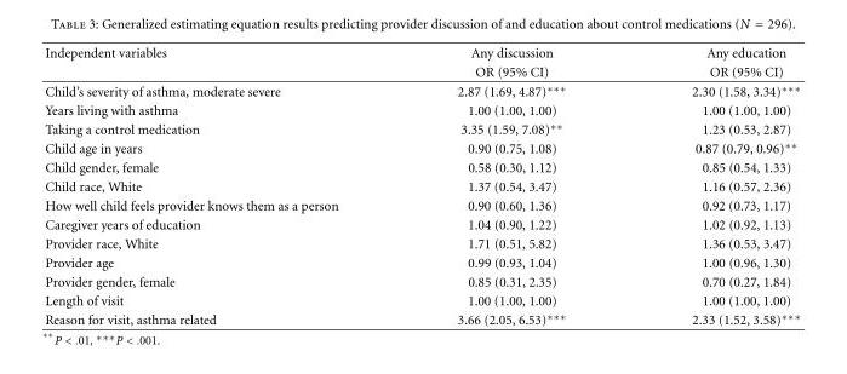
<table><thead><tr><td rowspan="2">Independent variables</td><td rowspan="2">Any discussion OR (95% CI)</td><td rowspan="2">Any education OR (95% CI)</td></tr><tr></tr></thead><tbody><tr><td>Child’s severity of asthma, moderate severe</td><td>2.87 (1.69, 4.87)∗∗∗</td><td>2.30 (1.58, 3.34)∗∗∗</td></tr><tr><td>Years living with asthma</td><td>1.00 (1.00, 1.00)</td><td>1.00 (1.00, 1.00)</td></tr><tr><td>Taking a control medication</td><td>3.35 (1.59, 7.08)∗∗</td><td>1.23 (0.53, 2.87)</td></tr><tr><td>Child age in years</td><td>0.90 (0.75, 1.08)</td><td>0.87 (0.79, 0.96)∗∗</td></tr><tr><td>Child gender, female</td><td>0.58 (0.30, 1.12)</td><td>0.85 (0.54, 1.33)</td></tr><tr><td>Child race, White</td><td>1.37 (0.54, 3.47)</td><td>1.16 (0.57, 2.36)</td></tr><tr><td>How well child feels provider knows them as a person</td><td>0.90 (0.60, 1.36)</td><td>0.92 (0.73, 1.17)</td></tr><tr><td>Caregiver years of education</td><td>1.04 (0.90, 1.22)</td><td>1.02 (0.92, 1.13)</td></tr><tr><td>Provider race, White</td><td>1.71 (0.51, 5.82)</td><td>1.36 (0.53, 3.47)</td></tr><tr><td>Provider age</td><td>0.99 (0.93, 1.04)</td><td>1.00 (0.96, 1.30)</td></tr><tr><td>Provider gender, female</td><td>0.85 (0.31, 2.35)</td><td>0.70 (0.27, 1.84)</td></tr><tr><td>Length of visit</td><td>1.00 (1.00, 1.00)</td><td>1.00 (1.00, 1.00)</td></tr><tr><td>Reason for visit, asthma related</td><td>3.66 (2.05, 6.53)∗∗∗</td><td>2.33 (1.52, 3.58)∗∗∗</td></tr></tbody></table>